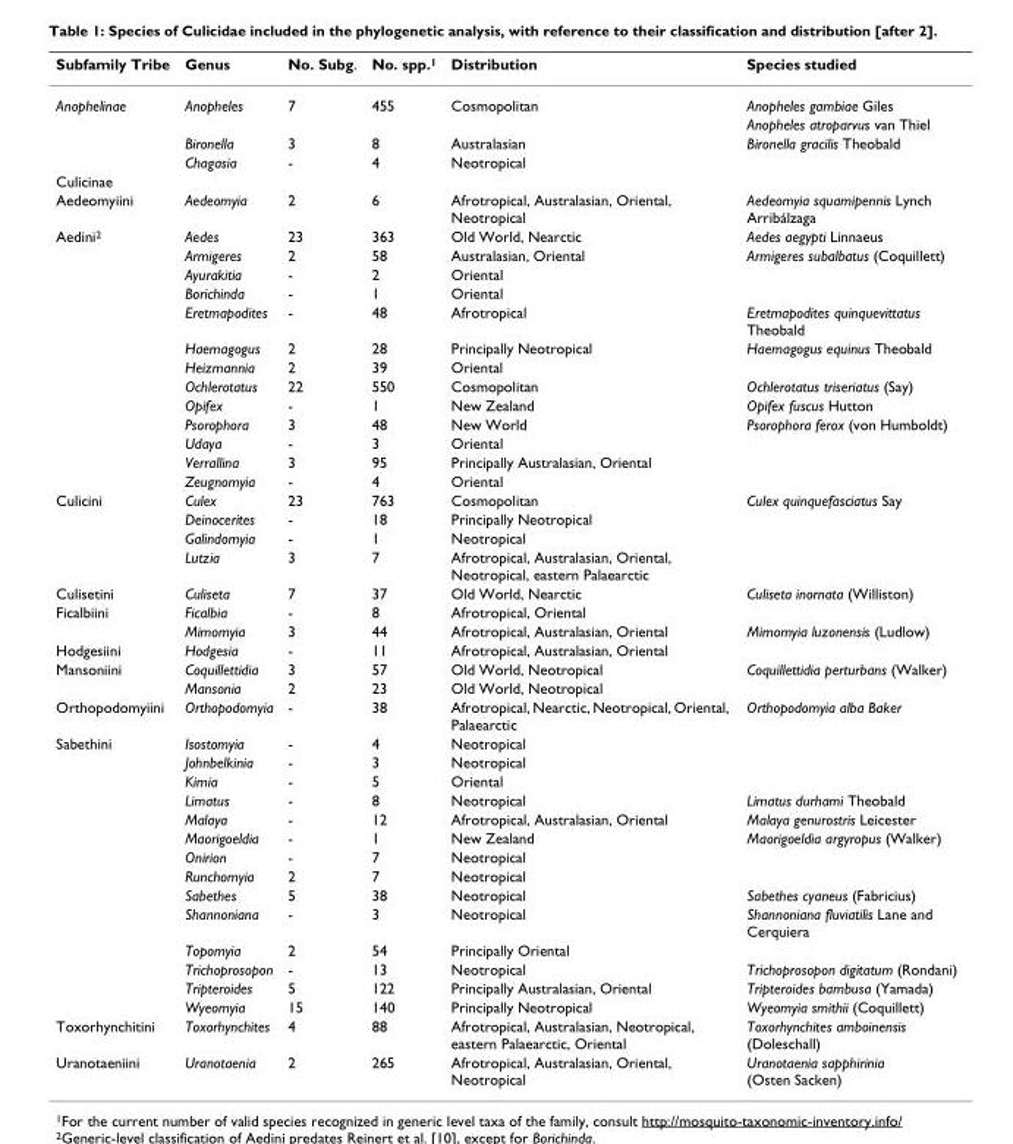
<table><thead><tr><td>Subfamily Tribe</td><td>Genus</td><td>No. Subg.</td><td>No. spp.<sup>1</sup></td><td>Distribution</td><td>Species studied</td></tr></thead><tbody><tr><td rowspan="4">Anophelinae</td><td>Anopheles</td><td>7</td><td>455</td><td>Cosmopolitan</td><td>Anopheles gambiae Giles</td></tr><tr><td></td><td></td><td></td><td></td><td>Anopheles atroparvus van Thiel</td></tr><tr><td>Bironella</td><td>3</td><td>8</td><td>Australasian</td><td>Bironella gracilis Theobald</td></tr><tr><td>Chagasia</td><td>-</td><td>4</td><td>Neotropical</td><td></td></tr><tr><td colspan="6">Culicinae</td></tr><tr><td>Aedeomyiini</td><td>Aedeomyia</td><td>2</td><td>6</td><td>Afrotropical, Australasian, Oriental, Neotropical</td><td>Aedeomyia squamipennis Lynch Arribálzaga</td></tr><tr><td rowspan="13">Aedini<sup>2</sup></td><td>Aedes</td><td>23</td><td>363</td><td>Old World, Nearctic</td><td>Aedes aegypti Linnaeus</td></tr><tr><td>Armigeres</td><td>2</td><td>58</td><td>Australasian, Oriental</td><td>Armigeres subalbatus (Coquillett)</td></tr><tr><td>Ayurakitia</td><td>-</td><td>2</td><td>Oriental</td><td></td></tr><tr><td>Borichinda</td><td>-</td><td>1</td><td>Oriental</td><td></td></tr><tr><td>Eretmapodites</td><td>-</td><td>48</td><td>Afrotropical</td><td>Eretmapodites quinquevittatus Theobald</td></tr><tr><td>Haemagogus</td><td>2</td><td>28</td><td>Principally Neotropical</td><td>Haemagogus equinus Theobald</td></tr><tr><td>Heizmannia</td><td>2</td><td>39</td><td>Oriental</td><td></td></tr><tr><td>Ochlerotatus</td><td>22</td><td>550</td><td>Cosmopolitan</td><td>Ochlerotatus triseriatus (Say)</td></tr><tr><td>Opifex</td><td>-</td><td>1</td><td>New Zealand</td><td>Opifex fuscus Hutton</td></tr><tr><td>Psorophora</td><td>3</td><td>48</td><td>New World</td><td>Psorophora ferox (von Humboldt)</td></tr><tr><td>Udaya</td><td>-</td><td>3</td><td>Oriental</td><td></td></tr><tr><td>Verrallina</td><td>3</td><td>95</td><td>Principally Australasian, Oriental</td><td></td></tr><tr><td>Zeugnomyia</td><td>-</td><td>4</td><td>Oriental</td><td></td></tr><tr><td rowspan="4">Culicini</td><td>Culex</td><td>23</td><td>763</td><td>Cosmopolitan</td><td>Culex quinquefasciatus Say</td></tr><tr><td>Deinocerites</td><td>-</td><td>18</td><td>Principally Neotropical</td><td></td></tr><tr><td>Galindomyia</td><td>-</td><td>1</td><td>Neotropical</td><td></td></tr><tr><td>Lutzia</td><td>3</td><td>7</td><td>Afrotropical, Australasian, Oriental, Neotropical, eastern Palaearctic</td><td></td></tr><tr><td>Culisetini</td><td>Culiseta</td><td>7</td><td>37</td><td>Old World, Nearctic</td><td>Culiseta inornata (Williston)</td></tr><tr><td rowspan="2">Ficalbiini</td><td>Ficalbia</td><td>-</td><td>8</td><td>Afrotropical, Oriental</td><td></td></tr><tr><td>Mimomyia</td><td>3</td><td>44</td><td>Afrotropical, Australasian, Oriental</td><td>Mimomyia luzonensis (Ludlow)</td></tr><tr><td>Hodgesiini</td><td>Hodgesia</td><td>-</td><td>11</td><td>Afrotropical, Australasian, Oriental</td><td></td></tr><tr><td rowspan="2">Mansoniini</td><td>Coquillettidia</td><td>3</td><td>57</td><td>Old World, Neotropical</td><td>Coquillettidia perturbans (Walker)</td></tr><tr><td>Mansonia</td><td>2</td><td>23</td><td>Old World, Neotropical</td><td></td></tr><tr><td>Orthopodomyiini</td><td>Orthopodomyia</td><td>-</td><td>38</td><td>Afrotropical, Nearctic, Neotropical, Oriental, Palaearctic</td><td>Orthopodomyia alba Baker</td></tr><tr><td rowspan="14">Sabethini</td><td>Isostomyia</td><td>-</td><td>4</td><td>Neotropical</td><td></td></tr><tr><td>Johnbelkinia</td><td>-</td><td>3</td><td>Neotropical</td><td></td></tr><tr><td>Kimia</td><td>-</td><td>5</td><td>Oriental</td><td></td></tr><tr><td>Limatus</td><td>-</td><td>8</td><td>Neotropical</td><td>Limatus durhami Theobald</td></tr><tr><td>Malaya</td><td>-</td><td>12</td><td>Afrotropical, Australasian, Oriental</td><td>Malaya genurostris Leicester</td></tr><tr><td>Maorigoeldia</td><td>-</td><td>1</td><td>New Zealand</td><td>Maorigoeldia argyropus (Walker)</td></tr><tr><td>Onirion</td><td>-</td><td>7</td><td>Neotropical</td><td></td></tr><tr><td>Runchomyia</td><td>2</td><td>7</td><td>Neotropical</td><td></td></tr><tr><td>Sabethes</td><td>5</td><td>38</td><td>Neotropical</td><td>Sabethes cyaneus (Fabricius)</td></tr><tr><td>Shannoniana</td><td>-</td><td>3</td><td>Neotropical</td><td>Shannoniana fluviatilis Lane and Cerquiera</td></tr><tr><td>Topomyia</td><td>2</td><td>54</td><td>Principally Oriental</td><td></td></tr><tr><td>Trichoprosopon</td><td>-</td><td>13</td><td>Neotropical</td><td>Trichoprosopon digitatum (Rondani)</td></tr><tr><td>Tripteroides</td><td>5</td><td>122</td><td>Principally Australasian, Oriental</td><td>Tripteroides bambusa (Yamada)</td></tr><tr><td>Wyeomyia</td><td>15</td><td>140</td><td>Principally Neotropical</td><td>Wyeomyia smithii (Coquillett)</td></tr><tr><td>Toxorhynchitini</td><td>Toxorhynchites</td><td>4</td><td>88</td><td>Afrotropical, Australasian, Neotropical, eastern Palaearctic, Oriental</td><td>Toxorhynchites amboinensis (Doleschall)</td></tr><tr><td>Uranotaeniini</td><td>Uranotaenia</td><td>2</td><td>265</td><td>Afrotropical, Australasian, Oriental, Neotropical</td><td>Uranotaenia sapphirinia (Osten Sacken)</td></tr></tbody></table>